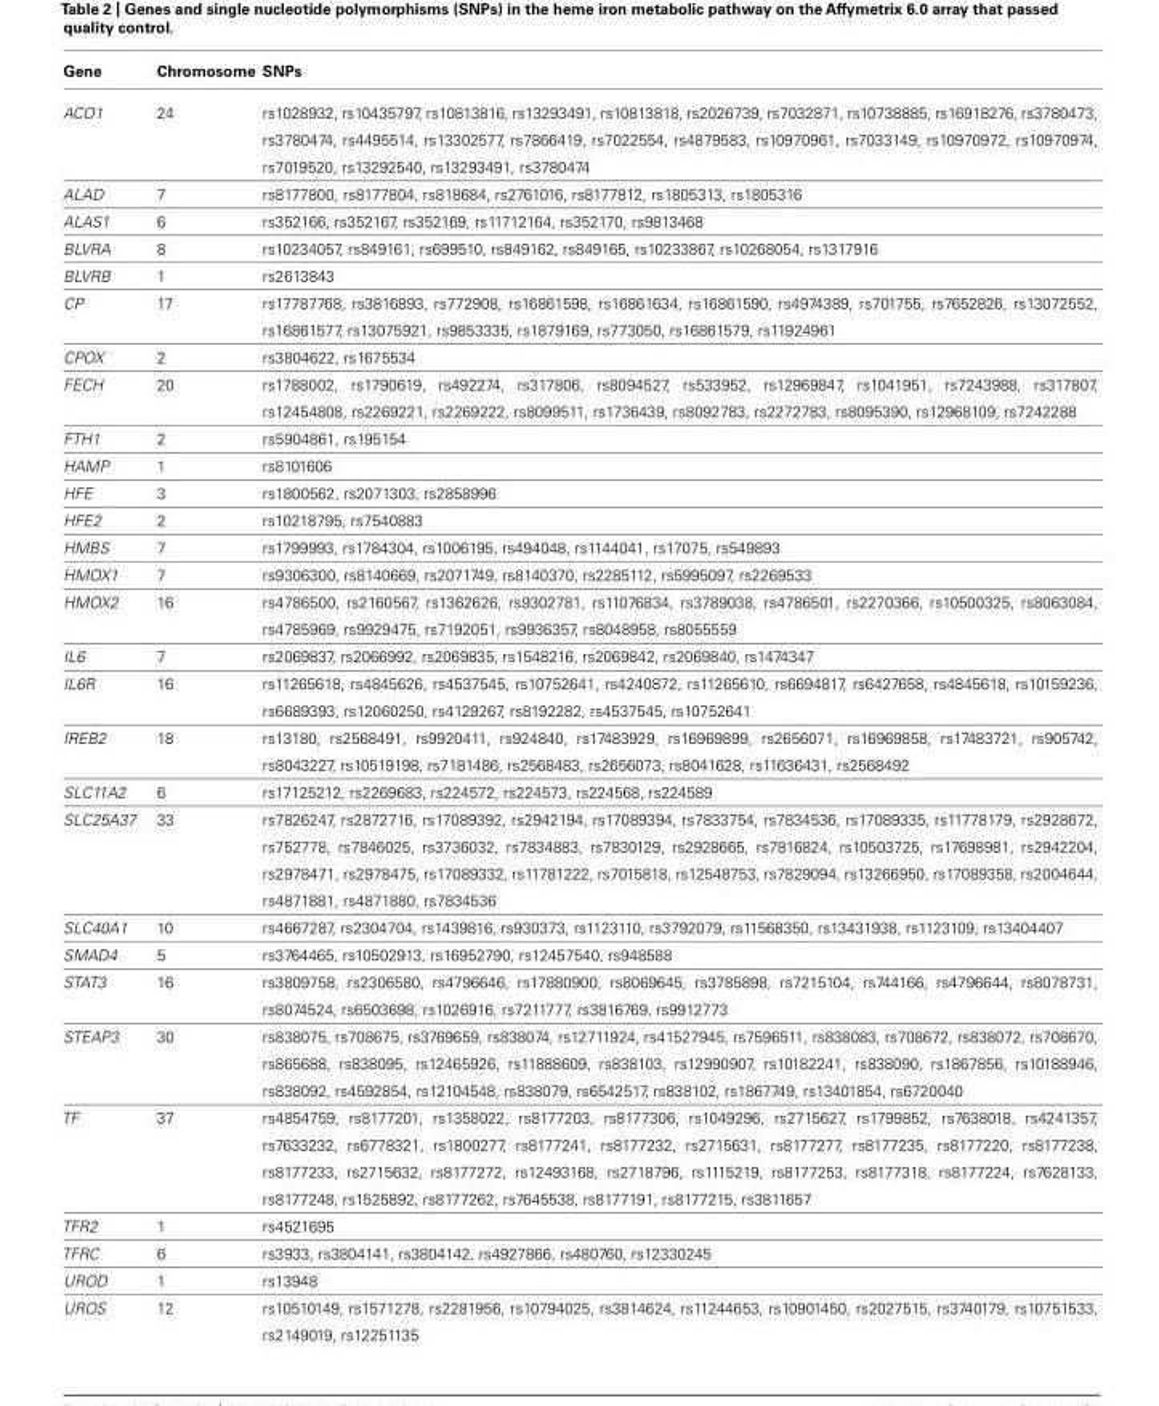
<table><thead><tr><td>Gene</td><td>Chromosome</td><td>SNPs</td></tr></thead><tbody><tr><td>ACO1</td><td>24</td><td>rs1028932, rs10435797, rs10813816, rs13293491, rs10813818, rs2026739, rs7032871, rs10738885, rs16918276, rs3780473, rs3780474, rs4495514, rs13302577, rs7866419, rs7022554, rs4879583, rs10970961, rs7033149, rs10970972, rs10970974, rs7019520, rs13292540, rs13293491, rs3780474</td></tr><tr><td>ALAD</td><td>7</td><td>rs8177800, rs8177804, rs818684, rs2761016, rs8177812, rs1805313, rs1805316</td></tr><tr><td>ALAS1</td><td>6</td><td>rs352166, rs352167, rs352169, rs11712164, rs352170, rs9813468</td></tr><tr><td>BLVRA</td><td>8</td><td>rs10234057, rs849161, rs699510, rs849162, rs849165, rs10233867, rs10268054, rs1317916</td></tr><tr><td>BLVRB</td><td>1</td><td>rs2613843</td></tr><tr><td>CP</td><td>17</td><td>rs17787768, rs3816893, rs772908, rs16861598, rs16861634, rs16861590, rs4974389, rs701755, rs7652826, rs13072552, rs16861577, rs13075921, rs9853335, rs1879169, rs773050, rs16861579, rs11924961</td></tr><tr><td>CPOX</td><td>2</td><td>rs3804622, rs1675534</td></tr><tr><td>FECH</td><td>20</td><td>rs1788002, rs1790619, rs492274, rs317806, rs8094527, rs533952, rs12969847, rs1041951, rs7243988, rs317807, rs12454808, rs2269221, rs2269222, rs8099511, rs1736439, rs8092783, rs2272783, rs8095390, rs12968109, rs7242288</td></tr><tr><td>FTH1</td><td>2</td><td>rs5904861, rs195154</td></tr><tr><td>HAMP</td><td>1</td><td>rs8101606</td></tr><tr><td>HFE</td><td>3</td><td>rs1800562, rs2071303, rs2858996</td></tr><tr><td>HFE2</td><td>2</td><td>rs10218795, rs7540883</td></tr><tr><td>HMBS</td><td>7</td><td>rs1799993, rs1784304, rs1006195, rs494048, rs1144041, rs17075, rs549893</td></tr><tr><td>HMOX1</td><td>7</td><td>rs9306300, rs8140669, rs2071749, rs8140370, rs2285112, rs5995097, rs2269533</td></tr><tr><td>HMOX2</td><td>16</td><td>rs4786500, rs2160567, rs1362626, rs9302781, rs11076834, rs3789038, rs4786501, rs2270366, rs10500325, rs8063084, rs4785969, rs9929475, rs7192051, rs9936357, rs8048958, rs8055559</td></tr><tr><td>IL6</td><td>7</td><td>rs2069837, rs2066992, rs2069835, rs1548216, rs2069842, rs2069840, rs1474347</td></tr><tr><td>IL6R</td><td>16</td><td>rs11265618, rs4845626, rs4537545, rs10752641, rs4240872, rs11265610, rs6694817, rs6427658, rs4845618, rs10159236, rs6689393, rs12060250, rs4129267, rs8192282, rs4537545, rs10752641</td></tr><tr><td>IREB2</td><td>18</td><td>rs13180, rs2568491, rs9920411, rs924840, rs17483929, rs16969899, rs2656071, rs16969858, rs17483721, rs905742, rs8043227, rs10519198, rs7181486, rs2568483, rs2656073, rs8041628, rs11636431, rs2568492</td></tr><tr><td>SLC11A2</td><td>6</td><td>rs17125212, rs2269683, rs224572, rs224573, rs224568, rs224589</td></tr><tr><td>SLC25A37</td><td>33</td><td>rs7826247, rs2872716, rs17089392, rs2942194, rs17089394, rs7833754, rs7834536, rs17089335, rs11778179, rs2928672, rs752778, rs7846025, rs3736032, rs7834883, rs7830129, rs2928665, rs7816824, rs10503725, rs17698981, rs2942204, rs2978471, rs2978475, rs17089332, rs11781222, rs7015818, rs12548753, rs7829094, rs13266950, rs17089358, rs2004644, rs4871881, rs4871880, rs7834536</td></tr><tr><td>SLC40A1</td><td>10</td><td>rs4667287, rs2304704, rs1439816, rs930373, rs1123110, rs3792079, rs11568350, rs13431938, rs1123109, rs13404407</td></tr><tr><td>SMAD4</td><td>5</td><td>rs3764465, rs10502913, rs16952790, rs12457540, rs948588</td></tr><tr><td>STAT3</td><td>16</td><td>rs3809758, rs2306580, rs4796646, rs17880900, rs8069645, rs3785898, rs7215104, rs744166, rs4796644, rs8078731, rs8074524, rs6503698, rs1026916, rs7211777, rs3816769, rs9912773</td></tr><tr><td>STEAP3</td><td>30</td><td>rs838075, rs708675, rs3769659, rs838074, rs12711924, rs41527945, rs7596511, rs838083, rs708672, rs838072, rs708670, rs865688, rs838095, rs12465926, rs11888609, rs838103, rs12990907, rs10182241, rs838090, rs1867856, rs10188946, rs838092, rs4592854, rs12104548, rs838079, rs6542517, rs838102, rs1867749, rs13401854, rs6720040</td></tr><tr><td>TF</td><td>37</td><td>rs4854759, rs8177201, rs1358022, rs8177203, rs8177306, rs1049296, rs2715627, rs1799852, rs7638018, rs4241357, rs7633232, rs6778321, rs1800277, rs8177241, rs8177232, rs2715631, rs8177277, rs8177235, rs8177220, rs8177238, rs8177233, rs2715632, rs8177272, rs12493168, rs2718796, rs1115219, rs8177253, rs8177318, rs8177224, rs7628133, rs8177248, rs1525892, rs8177262, rs7645538, rs8177191, rs8177215, rs3811657</td></tr><tr><td>TFR2</td><td>1</td><td>rs4521695</td></tr><tr><td>TFRC</td><td>6</td><td>rs3933, rs3804141, rs3804142, rs4927866, rs480760, rs12330245</td></tr><tr><td>UROD</td><td>1</td><td>rs13948</td></tr><tr><td>UROS</td><td>12</td><td>rs10510149, rs1571278, rs2281956, rs10794025, rs3814624, rs11244653, rs10901450, rs2027515, rs3740179, rs10751533, rs2149019, rs12251135</td></tr></tbody></table>